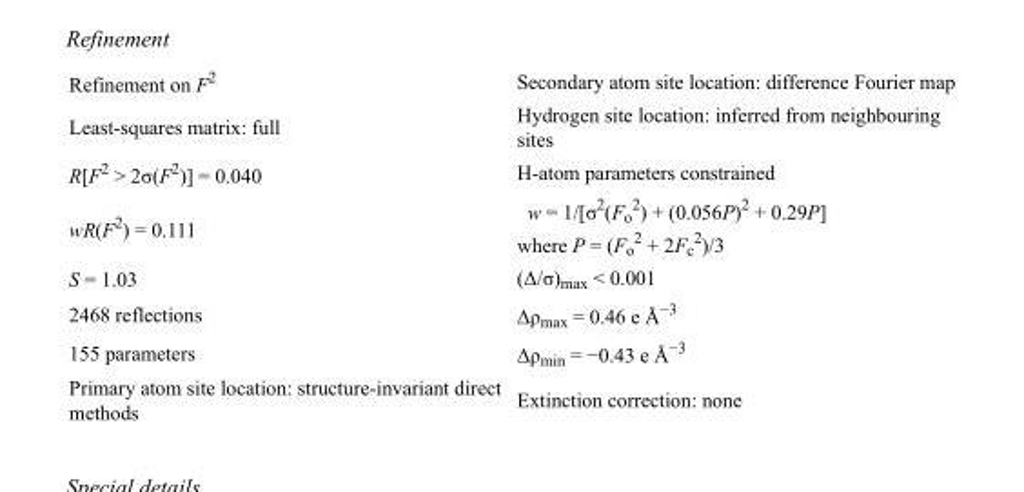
<table><tbody><tr><td>Refinement on F<sup>2</sup></td><td>Secondary atom site location: difference Fourier map</td></tr><tr><td>Least-squares matrix: full</td><td>Hydrogen site location: inferred from neighbouring sites</td></tr><tr><td>R[F<sup>2</sup> &gt; 2σ(F<sup>2</sup>)] = 0.040</td><td>H-atom parameters constrained</td></tr><tr><td>wR(F<sup>2</sup>) = 0.111</td><td>w = 1/[σ<sup>2</sup>(F<sub>o</sub> <sup>2</sup>) + (0.056P)<sup>2</sup> + 0.29P] where P = (F<sub>o</sub> <sup>2</sup> + 2F<sub>c</sub> <sup>2</sup>)/3</td></tr><tr><td>S = 1.03</td><td>(Δ/σ)<sub>max</sub> &lt; 0.001</td></tr><tr><td>2468 reflections</td><td>Δρ<sub>max</sub> = 0.46 e Å<sup>−3</sup></td></tr><tr><td>155 parameters</td><td>Δρ<sub>min</sub> = −0.43 e Å<sup>−3</sup></td></tr><tr><td>Primary atom site location: structure-invariant direct methods</td><td>Extinction correction: none</td></tr></tbody></table>